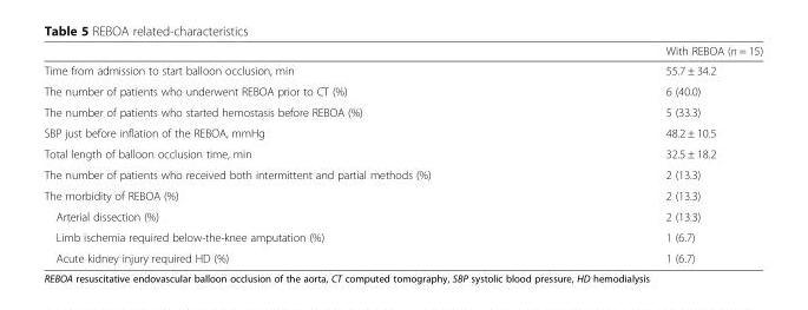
<table><thead><tr><td></td><td>With REBOA (n = 15)</td></tr></thead><tbody><tr><td>Time from admission to start balloon occlusion, min</td><td>55.7 ± 34.2</td></tr><tr><td>The number of patients who underwent REBOA prior to CT (%)</td><td>6 (40.0)</td></tr><tr><td>The number of patients who started hemostasis before REBOA (%)</td><td>5 (33.3)</td></tr><tr><td>SBP just before inflation of the REBOA, mmHg</td><td>48.2 ± 10.5</td></tr><tr><td>Total length of balloon occlusion time, min</td><td>32.5 ± 18.2</td></tr><tr><td>The number of patients who received both intermittent and partial methods (%)</td><td>2 (13.3)</td></tr><tr><td>The morbidity of REBOA (%)</td><td>2 (13.3)</td></tr><tr><td>Arterial dissection (%)</td><td>2 (13.3)</td></tr><tr><td>Limb ischemia required below-the-knee amputation (%)</td><td>1 (6.7)</td></tr><tr><td>Acute kidney injury required HD (%)</td><td>1 (6.7)</td></tr></tbody></table>